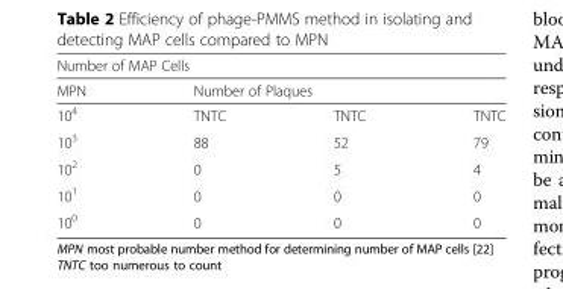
<table><thead><tr><td colspan="4">Number of MAP Cells</td></tr><tr><td rowspan="2">MPN 10<sup>4</sup></td><td colspan="3">Number of Plaques</td></tr><tr><td>TNTC</td><td>TNTC</td><td>TNTC</td></tr></thead><tbody><tr><td>10<sup>3</sup></td><td>88</td><td>52</td><td>79</td></tr><tr><td>10<sup>2</sup></td><td>0</td><td>5</td><td>4</td></tr><tr><td>10<sup>1</sup></td><td>0</td><td>0</td><td>0</td></tr><tr><td>10<sup>0</sup></td><td>0</td><td>0</td><td>0</td></tr></tbody></table>